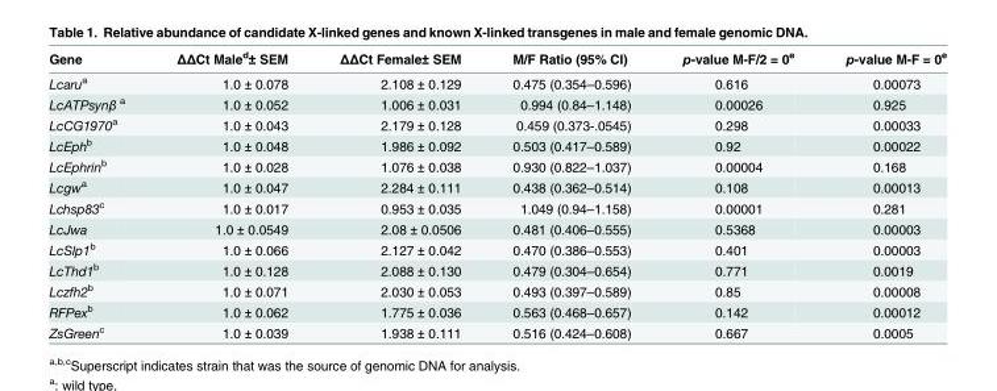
<table><thead><tr><td>Gene</td><td>ΔΔCt Male<sup>d</sup>± SEM</td><td>ΔΔCt Female± SEM</td><td>M/F Ratio (95% CI)</td><td>p-value M-F/2 = 0<sup>e</sup></td><td>p-value M-F = 0<sup>e</sup></td></tr></thead><tbody><tr><td>Lcaru<sup>a</sup></td><td>1.0 ± 0.078</td><td>2.108 ± 0.129</td><td>0.475 (0.354–0.596)</td><td>0.616</td><td>0.00073</td></tr><tr><td>LcATPsynβ <sup>a</sup></td><td>1.0 ± 0.052</td><td>1.006 ± 0.031</td><td>0.994 (0.84–1.148)</td><td>0.00026</td><td>0.925</td></tr><tr><td>LcCG1970<sup>a</sup></td><td>1.0 ± 0.043</td><td>2.179 ± 0.128</td><td>0.459 (0.373-.0545)</td><td>0.298</td><td>0.00033</td></tr><tr><td>LcEph<sup>b</sup></td><td>1.0 ± 0.048</td><td>1.986 ± 0.092</td><td>0.503 (0.417–0.589)</td><td>0.92</td><td>0.00022</td></tr><tr><td>LcEphrin<sup>b</sup></td><td>1.0 ± 0.028</td><td>1.076 ± 0.038</td><td>0.930 (0.822–1.037)</td><td>0.00004</td><td>0.168</td></tr><tr><td>Lcgw<sup>a</sup></td><td>1.0 ± 0.047</td><td>2.284 ± 0.111</td><td>0.438 (0.362–0.514)</td><td>0.108</td><td>0.00013</td></tr><tr><td>Lchsp83<sup>c</sup></td><td>1.0 ± 0.017</td><td>0.953 ± 0.035</td><td>1.049 (0.94–1.158)</td><td>0.00001</td><td>0.281</td></tr><tr><td>LcJwa</td><td>1.0 ± 0.0549</td><td>2.08 ± 0.0506</td><td>0.481 (0.406–0.555)</td><td>0.5368</td><td>0.00003</td></tr><tr><td>LcSlp1<sup>b</sup></td><td>1.0 ± 0.066</td><td>2.127 ± 0.042</td><td>0.470 (0.386–0.553)</td><td>0.401</td><td>0.00003</td></tr><tr><td>LcThd1<sup>b</sup></td><td>1.0 ± 0.128</td><td>2.088 ± 0.130</td><td>0.479 (0.304–0.654)</td><td>0.771</td><td>0.0019</td></tr><tr><td>Lczfh2<sup>b</sup></td><td>1.0 ± 0.071</td><td>2.030 ± 0.053</td><td>0.493 (0.397–0.589)</td><td>0.85</td><td>0.00008</td></tr><tr><td>RFPex<sup>b</sup></td><td>1.0 ± 0.062</td><td>1.775 ± 0.036</td><td>0.563 (0.468–0.657)</td><td>0.142</td><td>0.00012</td></tr><tr><td>ZsGreen<sup>c</sup></td><td>1.0 ± 0.039</td><td>1.938 ± 0.111</td><td>0.516 (0.424–0.608)</td><td>0.667</td><td>0.0005</td></tr></tbody></table>